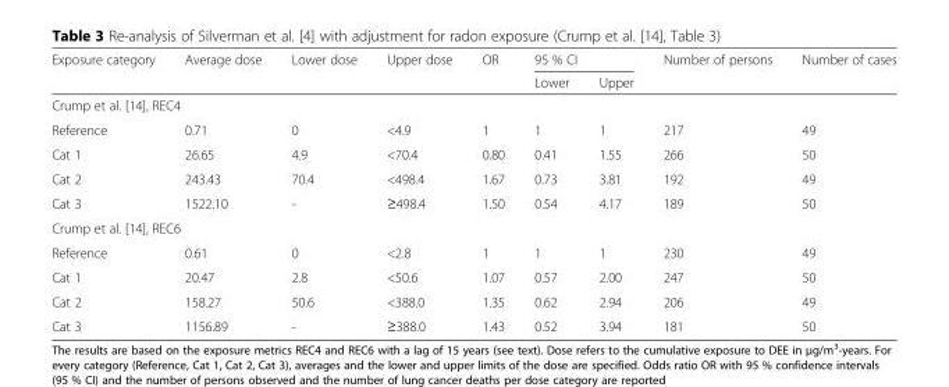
<table><thead><tr><td rowspan="2">Exposure category</td><td rowspan="2">Average dose</td><td rowspan="2">Lower dose</td><td rowspan="2">Upper dose</td><td rowspan="2">OR</td><td colspan="2">95 % CI</td><td rowspan="2">Number of persons</td><td rowspan="2">Number of cases</td></tr><tr><td>Lower</td><td>Upper</td></tr></thead><tbody><tr><td colspan="9">Crump et al. [14], REC4</td></tr><tr><td>Reference</td><td>0.71</td><td>0</td><td>&lt;4.9</td><td>1</td><td>1</td><td>1</td><td>217</td><td>49</td></tr><tr><td>Cat 1</td><td>26.65</td><td>4.9</td><td>&lt;70.4</td><td>0.80</td><td>0.41</td><td>1.55</td><td>266</td><td>50</td></tr><tr><td>Cat 2</td><td>243.43</td><td>70.4</td><td>&lt;498.4</td><td>1.67</td><td>0.73</td><td>3.81</td><td>192</td><td>49</td></tr><tr><td>Cat 3</td><td>1522.10</td><td>-</td><td>≥498.4</td><td>1.50</td><td>0.54</td><td>4.17</td><td>189</td><td>50</td></tr><tr><td colspan="9">Crump et al. [14], REC6</td></tr><tr><td>Reference</td><td>0.61</td><td>0</td><td>&lt;2.8</td><td>1</td><td>1</td><td>1</td><td>230</td><td>49</td></tr><tr><td>Cat 1</td><td>20.47</td><td>2.8</td><td>&lt;50.6</td><td>1.07</td><td>0.57</td><td>2.00</td><td>247</td><td>50</td></tr><tr><td>Cat 2</td><td>158.27</td><td>50.6</td><td>&lt;388.0</td><td>1.35</td><td>0.62</td><td>2.94</td><td>206</td><td>49</td></tr><tr><td>Cat 3</td><td>1156.89</td><td>-</td><td>≥388.0</td><td>1.43</td><td>0.52</td><td>3.94</td><td>181</td><td>50</td></tr></tbody></table>